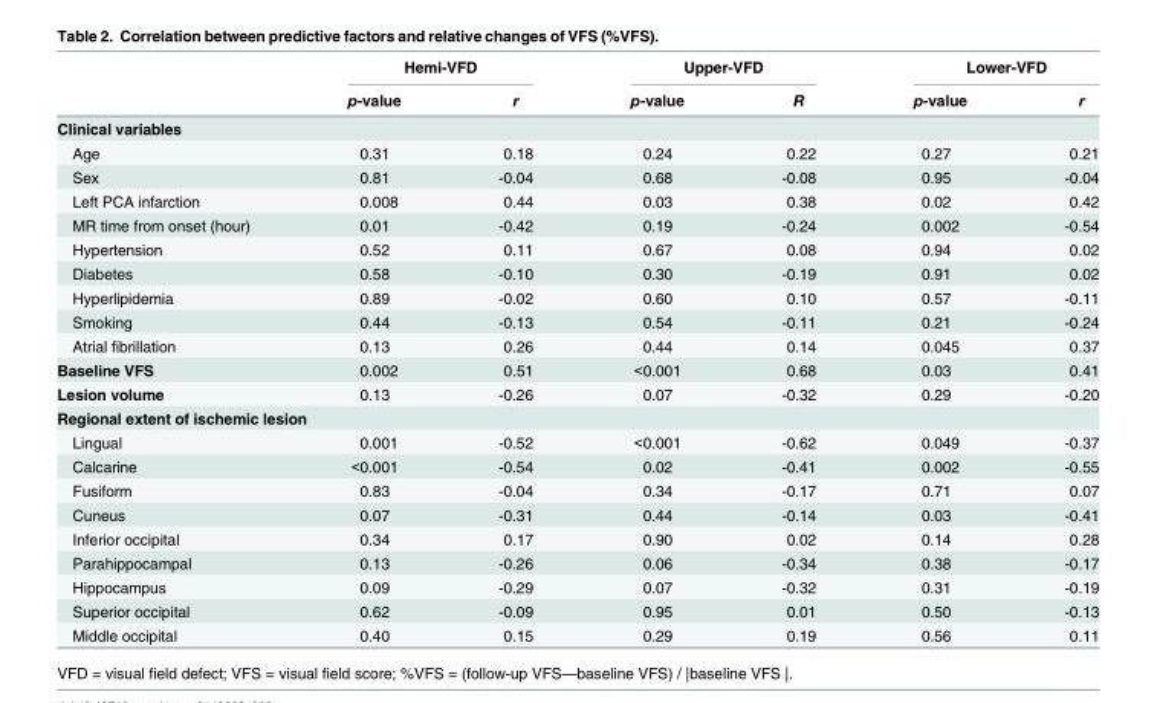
<table><thead><tr><td rowspan="2"></td><td colspan="2">Hemi-VFD</td><td colspan="2">Upper-VFD</td><td colspan="2">Lower-VFD</td></tr><tr><td>p-value</td><td>r</td><td>p-value</td><td>R</td><td>p-value</td><td>r</td></tr></thead><tbody><tr><td colspan="7">Clinical variables</td></tr><tr><td>Age</td><td>0.31</td><td>0.18</td><td>0.24</td><td>0.22</td><td>0.27</td><td>0.21</td></tr><tr><td>Sex</td><td>0.81</td><td>-0.04</td><td>0.68</td><td>-0.08</td><td>0.95</td><td>-0.04</td></tr><tr><td>Left PCA infarction</td><td>0.008</td><td>0.44</td><td>0.03</td><td>0.38</td><td>0.02</td><td>0.42</td></tr><tr><td>MR time from onset (hour)</td><td>0.01</td><td>-0.42</td><td>0.19</td><td>-0.24</td><td>0.002</td><td>-0.54</td></tr><tr><td>Hypertension</td><td>0.52</td><td>0.11</td><td>0.67</td><td>0.08</td><td>0.94</td><td>0.02</td></tr><tr><td>Diabetes</td><td>0.58</td><td>-0.10</td><td>0.30</td><td>-0.19</td><td>0.91</td><td>0.02</td></tr><tr><td>Hyperlipidemia</td><td>0.89</td><td>-0.02</td><td>0.60</td><td>0.10</td><td>0.57</td><td>-0.11</td></tr><tr><td>Smoking</td><td>0.44</td><td>-0.13</td><td>0.54</td><td>-0.11</td><td>0.21</td><td>-0.24</td></tr><tr><td>Atrial fibrillation</td><td>0.13</td><td>0.26</td><td>0.44</td><td>0.14</td><td>0.045</td><td>0.37</td></tr><tr><td>Baseline VFS</td><td>0.002</td><td>0.51</td><td>&lt;0.001</td><td>0.68</td><td>0.03</td><td>0.41</td></tr><tr><td>Lesion volume</td><td>0.13</td><td>-0.26</td><td>0.07</td><td>-0.32</td><td>0.29</td><td>-0.20</td></tr><tr><td colspan="7">Regional extent of ischemic lesion</td></tr><tr><td>Lingual</td><td>0.001</td><td>-0.52</td><td>&lt;0.001</td><td>-0.62</td><td>0.049</td><td>-0.37</td></tr><tr><td>Calcarine</td><td>&lt;0.001</td><td>-0.54</td><td>0.02</td><td>-0.41</td><td>0.002</td><td>-0.55</td></tr><tr><td>Fusiform</td><td>0.83</td><td>-0.04</td><td>0.34</td><td>-0.17</td><td>0.71</td><td>0.07</td></tr><tr><td>Cuneus</td><td>0.07</td><td>-0.31</td><td>0.44</td><td>-0.14</td><td>0.03</td><td>-0.41</td></tr><tr><td>Inferior occipital</td><td>0.34</td><td>0.17</td><td>0.90</td><td>0.02</td><td>0.14</td><td>0.28</td></tr><tr><td>Parahippocampal</td><td>0.13</td><td>-0.26</td><td>0.06</td><td>-0.34</td><td>0.38</td><td>-0.17</td></tr><tr><td>Hippocampus</td><td>0.09</td><td>-0.29</td><td>0.07</td><td>-0.32</td><td>0.31</td><td>-0.19</td></tr><tr><td>Superior occipital</td><td>0.62</td><td>-0.09</td><td>0.95</td><td>0.01</td><td>0.50</td><td>-0.13</td></tr><tr><td>Middle occipital</td><td>0.40</td><td>0.15</td><td>0.29</td><td>0.19</td><td>0.56</td><td>0.11</td></tr></tbody></table>